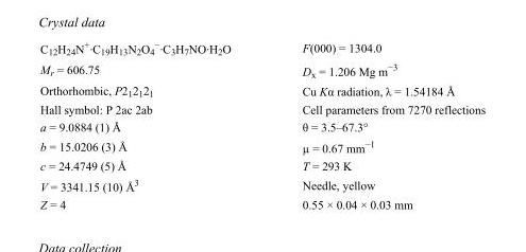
<table><tbody><tr><td>C<sub>12</sub>H<sub>24</sub>N<sup>+</sup>·C<sub>19</sub>H<sub>13</sub>N<sub>2</sub>O<sub>4</sub> <sup>−</sup>·C<sub>3</sub>H<sub>7</sub>NO·H<sub>2</sub>O</td><td>F(000) = 1304.0</td></tr><tr><td>M<sub>r</sub> = 606.75</td><td>D<sub>x</sub> = 1.206 Mg m<sup>−3</sup></td></tr><tr><td>Orthorhombic, P2<sub>1</sub>2<sub>1</sub>2<sub>1</sub></td><td>Cu Kα radiation, λ = 1.54184 Å</td></tr><tr><td>Hall symbol: P 2ac 2ab</td><td>Cell parameters from 7270 reflections</td></tr><tr><td>a = 9.0884 (1) Å</td><td>θ = 3.5–67.3°</td></tr><tr><td>b = 15.0206 (3) Å</td><td>µ = 0.67 mm<sup>−1</sup></td></tr><tr><td>c = 24.4749 (5) Å</td><td>T = 293 K</td></tr><tr><td>V = 3341.15 (10) Å<sup>3</sup></td><td>Needle, yellow</td></tr><tr><td>Z = 4</td><td>0.55 × 0.04 × 0.03 mm</td></tr></tbody></table>